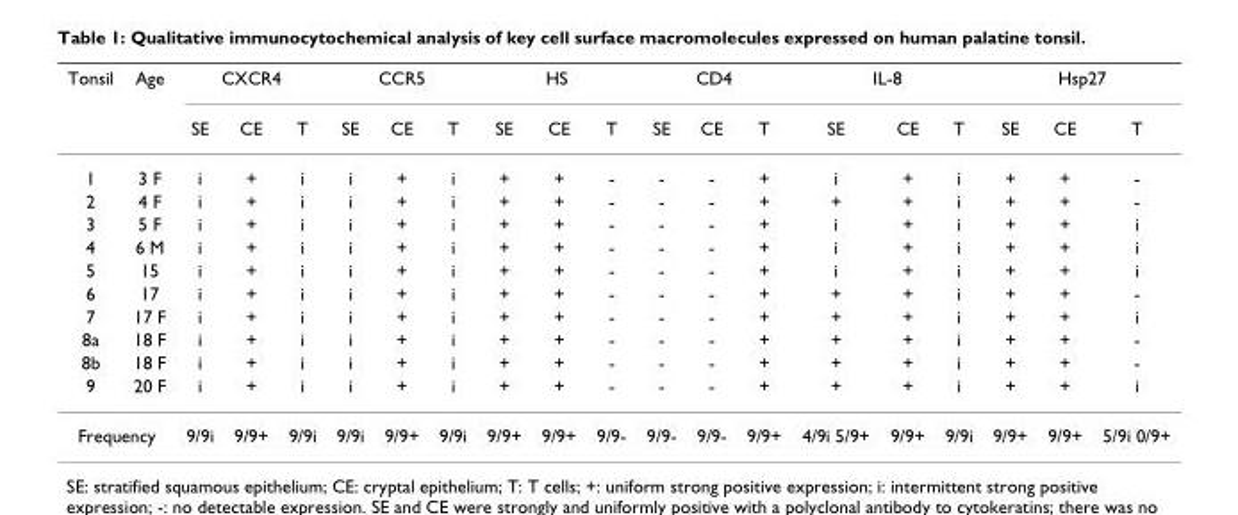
<table><thead><tr><td rowspan="2">Tonsil</td><td rowspan="2">Age</td><td colspan="3">CXCR4</td><td colspan="3">CCR5</td><td colspan="3">HS</td><td colspan="3">CD4</td><td colspan="3">IL-8</td><td colspan="3">Hsp27</td></tr><tr><td>SE</td><td>CE</td><td>T</td><td>SE</td><td>CE</td><td>T</td><td>SE</td><td>CE</td><td>T</td><td>SE</td><td>CE</td><td>T</td><td>SE</td><td>CE</td><td>T</td><td>SE</td><td>CE</td><td>T</td></tr></thead><tbody><tr><td>1</td><td>3 F</td><td>i</td><td>+</td><td>i</td><td>i</td><td>+</td><td>i</td><td>+</td><td>+</td><td>-</td><td>-</td><td>-</td><td>+</td><td>i</td><td>+</td><td>i</td><td>+</td><td>+</td><td>-</td></tr><tr><td>2</td><td>4 F</td><td>i</td><td>+</td><td>i</td><td>i</td><td>+</td><td>i</td><td>+</td><td>+</td><td>-</td><td>-</td><td>-</td><td>+</td><td>+</td><td>+</td><td>i</td><td>+</td><td>+</td><td>-</td></tr><tr><td>3</td><td>5 F</td><td>i</td><td>+</td><td>i</td><td>i</td><td>+</td><td>i</td><td>+</td><td>+</td><td>-</td><td>-</td><td>-</td><td>+</td><td>i</td><td>+</td><td>i</td><td>+</td><td>+</td><td>i</td></tr><tr><td>4</td><td>6 M</td><td>i</td><td>+</td><td>i</td><td>i</td><td>+</td><td>i</td><td>+</td><td>+</td><td>-</td><td>-</td><td>-</td><td>+</td><td>i</td><td>+</td><td>i</td><td>+</td><td>+</td><td>i</td></tr><tr><td>5</td><td>15</td><td>i</td><td>+</td><td>i</td><td>i</td><td>+</td><td>i</td><td>+</td><td>+</td><td>-</td><td>-</td><td>-</td><td>+</td><td>i</td><td>+</td><td>i</td><td>+</td><td>+</td><td>i</td></tr><tr><td>6</td><td>17</td><td>i</td><td>+</td><td>i</td><td>i</td><td>+</td><td>i</td><td>+</td><td>+</td><td>-</td><td>-</td><td>-</td><td>+</td><td>+</td><td>+</td><td>i</td><td>+</td><td>+</td><td>-</td></tr><tr><td>7</td><td>17 F</td><td>i</td><td>+</td><td>i</td><td>i</td><td>+</td><td>i</td><td>+</td><td>+</td><td>-</td><td>-</td><td>-</td><td>+</td><td>+</td><td>+</td><td>i</td><td>+</td><td>+</td><td>i</td></tr><tr><td>8a</td><td>18 F</td><td>i</td><td>+</td><td>i</td><td>i</td><td>+</td><td>i</td><td>+</td><td>+</td><td>-</td><td>-</td><td>-</td><td>+</td><td>+</td><td>+</td><td>i</td><td>+</td><td>+</td><td>-</td></tr><tr><td>8b</td><td>18 F</td><td>i</td><td>+</td><td>i</td><td>i</td><td>+</td><td>i</td><td>+</td><td>+</td><td>-</td><td>-</td><td>-</td><td>+</td><td>+</td><td>+</td><td>i</td><td>+</td><td>+</td><td>-</td></tr><tr><td>9</td><td>20 F</td><td>i</td><td>+</td><td>i</td><td>i</td><td>+</td><td>i</td><td>+</td><td>+</td><td>-</td><td>-</td><td>-</td><td>+</td><td>+</td><td>+</td><td>i</td><td>+</td><td>+</td><td>i</td></tr><tr><td colspan="2">Frequency</td><td>9/9i</td><td>9/9+</td><td>9/9i</td><td>9/9i</td><td>9/9+</td><td>9/9i</td><td>9/9+</td><td>9/9+</td><td>9/9-</td><td>9/9-</td><td>9/9-</td><td>9/9+</td><td>4/9i 5/9+</td><td>9/9+</td><td>9/9i</td><td>9/9+</td><td>9/9+</td><td>5/9i 0/9+</td></tr></tbody></table>